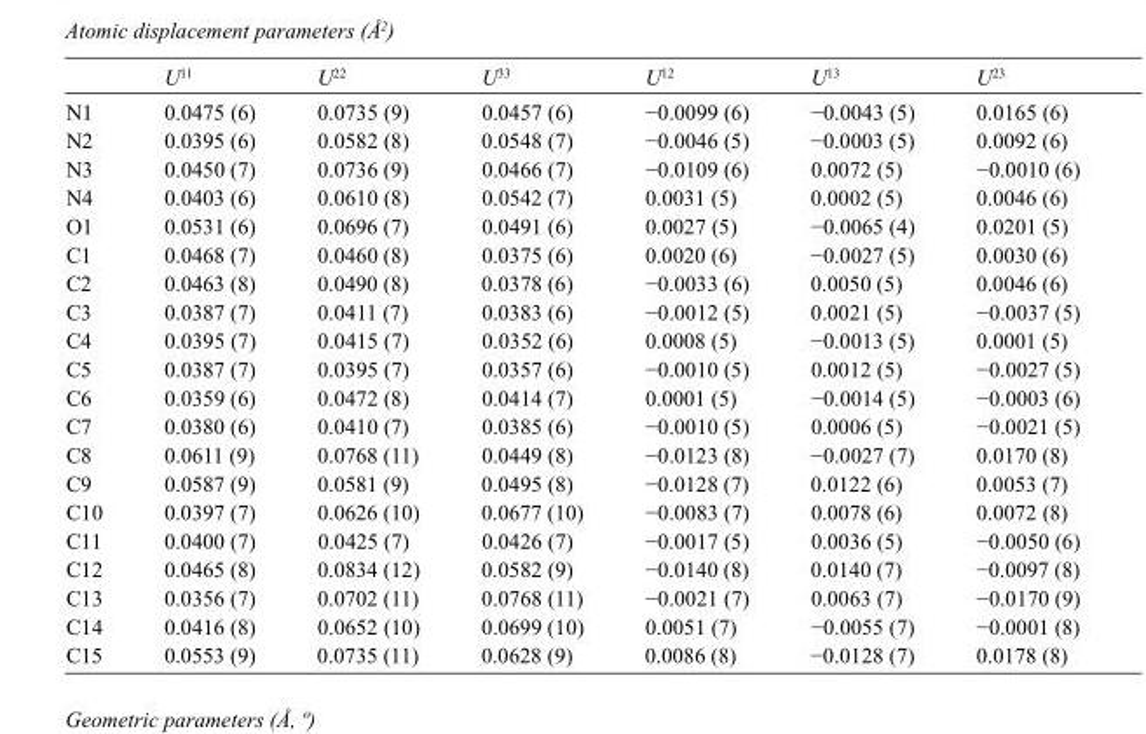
<table><thead><tr><td></td><td>U<sup>11</sup></td><td>U<sup>22</sup></td><td>U<sup>33</sup></td><td>U<sup>12</sup></td><td>U<sup>13</sup></td><td>U<sup>23</sup></td></tr></thead><tbody><tr><td>N1</td><td>0.0475 (6)</td><td>0.0735 (9)</td><td>0.0457 (6)</td><td>−0.0099 (6)</td><td>−0.0043 (5)</td><td>0.0165 (6)</td></tr><tr><td>N2</td><td>0.0395 (6)</td><td>0.0582 (8)</td><td>0.0548 (7)</td><td>−0.0046 (5)</td><td>−0.0003 (5)</td><td>0.0092 (6)</td></tr><tr><td>N3</td><td>0.0450 (7)</td><td>0.0736 (9)</td><td>0.0466 (7)</td><td>−0.0109 (6)</td><td>0.0072 (5)</td><td>−0.0010 (6)</td></tr><tr><td>N4</td><td>0.0403 (6)</td><td>0.0610 (8)</td><td>0.0542 (7)</td><td>0.0031 (5)</td><td>0.0002 (5)</td><td>0.0046 (6)</td></tr><tr><td>O1</td><td>0.0531 (6)</td><td>0.0696 (7)</td><td>0.0491 (6)</td><td>0.0027 (5)</td><td>−0.0065 (4)</td><td>0.0201 (5)</td></tr><tr><td>C1</td><td>0.0468 (7)</td><td>0.0460 (8)</td><td>0.0375 (6)</td><td>0.0020 (6)</td><td>−0.0027 (5)</td><td>0.0030 (6)</td></tr><tr><td>C2</td><td>0.0463 (8)</td><td>0.0490 (8)</td><td>0.0378 (6)</td><td>−0.0033 (6)</td><td>0.0050 (5)</td><td>0.0046 (6)</td></tr><tr><td>C3</td><td>0.0387 (7)</td><td>0.0411 (7)</td><td>0.0383 (6)</td><td>−0.0012 (5)</td><td>0.0021 (5)</td><td>−0.0037 (5)</td></tr><tr><td>C4</td><td>0.0395 (7)</td><td>0.0415 (7)</td><td>0.0352 (6)</td><td>0.0008 (5)</td><td>−0.0013 (5)</td><td>0.0001 (5)</td></tr><tr><td>C5</td><td>0.0387 (7)</td><td>0.0395 (7)</td><td>0.0357 (6)</td><td>−0.0010 (5)</td><td>0.0012 (5)</td><td>−0.0027 (5)</td></tr><tr><td>C6</td><td>0.0359 (6)</td><td>0.0472 (8)</td><td>0.0414 (7)</td><td>0.0001 (5)</td><td>−0.0014 (5)</td><td>−0.0003 (6)</td></tr><tr><td>C7</td><td>0.0380 (6)</td><td>0.0410 (7)</td><td>0.0385 (6)</td><td>−0.0010 (5)</td><td>0.0006 (5)</td><td>−0.0021 (5)</td></tr><tr><td>C8</td><td>0.0611 (9)</td><td>0.0768 (11)</td><td>0.0449 (8)</td><td>−0.0123 (8)</td><td>−0.0027 (7)</td><td>0.0170 (8)</td></tr><tr><td>C9</td><td>0.0587 (9)</td><td>0.0581 (9)</td><td>0.0495 (8)</td><td>−0.0128 (7)</td><td>0.0122 (6)</td><td>0.0053 (7)</td></tr><tr><td>C10</td><td>0.0397 (7)</td><td>0.0626 (10)</td><td>0.0677 (10)</td><td>−0.0083 (7)</td><td>0.0078 (6)</td><td>0.0072 (8)</td></tr><tr><td>C11</td><td>0.0400 (7)</td><td>0.0425 (7)</td><td>0.0426 (7)</td><td>−0.0017 (5)</td><td>0.0036 (5)</td><td>−0.0050 (6)</td></tr><tr><td>C12</td><td>0.0465 (8)</td><td>0.0834 (12)</td><td>0.0582 (9)</td><td>−0.0140 (8)</td><td>0.0140 (7)</td><td>−0.0097 (8)</td></tr><tr><td>C13</td><td>0.0356 (7)</td><td>0.0702 (11)</td><td>0.0768 (11)</td><td>−0.0021 (7)</td><td>0.0063 (7)</td><td>−0.0170 (9)</td></tr><tr><td>C14</td><td>0.0416 (8)</td><td>0.0652 (10)</td><td>0.0699 (10)</td><td>0.0051 (7)</td><td>−0.0055 (7)</td><td>−0.0001 (8)</td></tr><tr><td>C15</td><td>0.0553 (9)</td><td>0.0735 (11)</td><td>0.0628 (9)</td><td>0.0086 (8)</td><td>−0.0128 (7)</td><td>0.0178 (8)</td></tr></tbody></table>